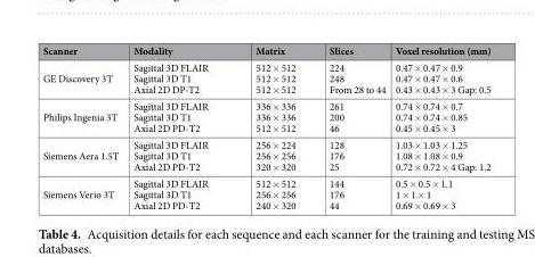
<table><thead><tr><td>Scanner</td><td>Modality</td><td>Matrix</td><td>Slices</td><td>Voxel resolution (mm)</td></tr></thead><tbody><tr><td>GE Discovery 3T</td><td>Sagittal 3D FLAIR Sagittal 3D T1 Axial 2D DP-T2</td><td>512 × 512 512 × 512 512 × 512</td><td>224 248 From 28 to 44</td><td>0.47 × 0.47 × 0.9 0.47 × 0.47 × 0.6 0.43 × 0.43 × 3 Gap: 0.5</td></tr><tr><td>Philips Ingenia 3T</td><td>Sagittal 3D FLAIR Sagittal 3D T1 Axial 2D PD-T2</td><td>336 × 336 336 × 336 512 × 512</td><td>261 200 46</td><td>0.74 × 0.74 × 0.7 0.74 × 0.74 × 0.85 0.45 × 0.45 × 3</td></tr><tr><td>Siemens Aera 1.5T</td><td>Sagittal 3D FLAIR Sagittal 3D T1 Axial 2D PD-T2</td><td>256 × 224 256 × 256 320 × 320</td><td>128 176 25</td><td>1.03 × 1.03 × 1.25 1.08 × 1.08 × 0.9 0.72 × 0.72 × 4 Gap: 1.2</td></tr><tr><td>Siemens Verio 3T</td><td>Sagittal 3D FLAIR Sagittal 3D T1 Axial 2D PD-T2</td><td>512 × 512 256 × 256 240 × 320</td><td>144 176 44</td><td>0.5 × 0.5 × 1.1 1 × 1 × 1 0.69 × 0.69 × 3</td></tr></tbody></table>